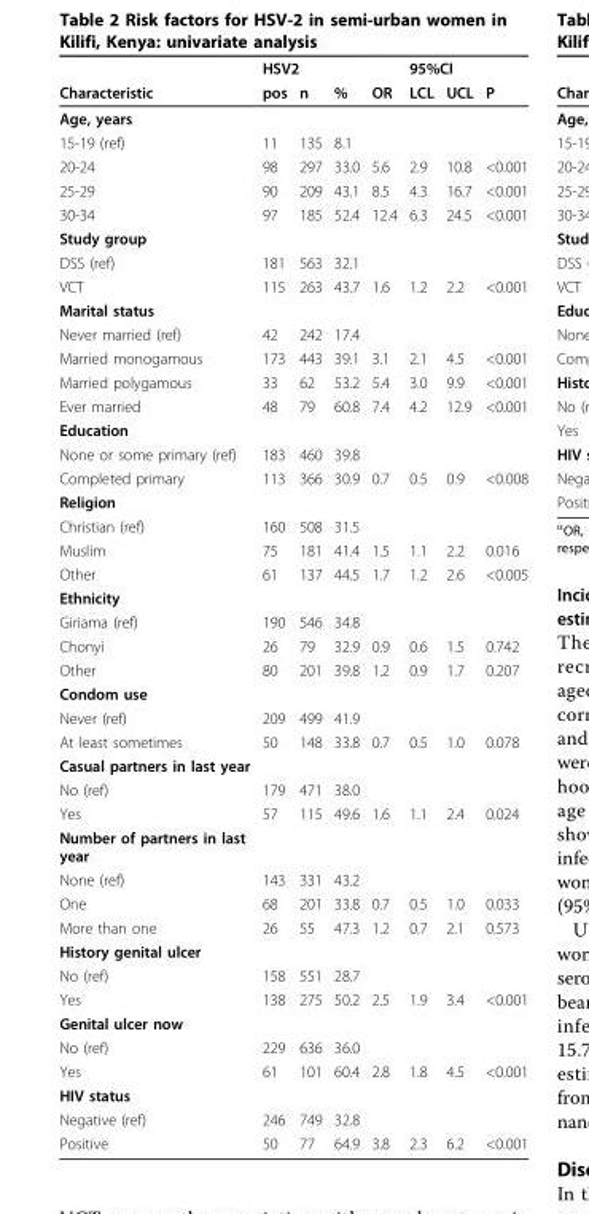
<table><thead><tr><td rowspan="2">Characteristic</td><td colspan="3">HSV2</td><td rowspan="2">OR</td><td colspan="3">95%CI</td></tr><tr><td>pos</td><td>n</td><td>%</td><td>LCL</td><td>UCL</td><td>P</td></tr></thead><tbody><tr><td colspan="8">Age, years</td></tr><tr><td>15-19 (ref)</td><td>11</td><td>135</td><td>8.1</td><td></td><td></td><td></td><td></td></tr><tr><td>20-24</td><td>98</td><td>297</td><td>33.0</td><td>5.6</td><td>2.9</td><td>10.8</td><td>&lt;0.001</td></tr><tr><td>25-29</td><td>90</td><td>209</td><td>43.1</td><td>8.5</td><td>4.3</td><td>16.7</td><td>&lt;0.001</td></tr><tr><td>30-34</td><td>97</td><td>185</td><td>52.4</td><td>12.4</td><td>6.3</td><td>24.5</td><td>&lt;0.001</td></tr><tr><td colspan="8">Study group</td></tr><tr><td>DSS (ref)</td><td>181</td><td>563</td><td>32.1</td><td></td><td></td><td></td><td></td></tr><tr><td>VCT</td><td>115</td><td>263</td><td>43.7</td><td>1.6</td><td>1.2</td><td>2.2</td><td>&lt;0.001</td></tr><tr><td colspan="8">Marital status</td></tr><tr><td>Never married (ref)</td><td>42</td><td>242</td><td>17.4</td><td></td><td></td><td></td><td></td></tr><tr><td>Married monogamous</td><td>173</td><td>443</td><td>39.1</td><td>3.1</td><td>2.1</td><td>4.5</td><td>&lt;0.001</td></tr><tr><td>Married polygamous</td><td>33</td><td>62</td><td>53.2</td><td>5.4</td><td>3.0</td><td>9.9</td><td>&lt;0.001</td></tr><tr><td>Ever married</td><td>48</td><td>79</td><td>60.8</td><td>7.4</td><td>4.2</td><td>12.9</td><td>&lt;0.001</td></tr><tr><td colspan="8">Education</td></tr><tr><td>None or some primary (ref)</td><td>183</td><td>460</td><td>39.8</td><td></td><td></td><td></td><td></td></tr><tr><td>Completed primary</td><td>113</td><td>366</td><td>30.9</td><td>0.7</td><td>0.5</td><td>0.9</td><td>&lt;0.008</td></tr><tr><td colspan="8">Religion</td></tr><tr><td>Christian (ref)</td><td>160</td><td>508</td><td>31.5</td><td></td><td></td><td></td><td></td></tr><tr><td>Muslim</td><td>75</td><td>181</td><td>41.4</td><td>1.5</td><td>1.1</td><td>2.2</td><td>0.016</td></tr><tr><td>Other</td><td>61</td><td>137</td><td>44.5</td><td>1.7</td><td>1.2</td><td>2.6</td><td>&lt;0.005</td></tr><tr><td colspan="8">Ethnicity</td></tr><tr><td>Giriama (ref)</td><td>190</td><td>546</td><td>34.8</td><td></td><td></td><td></td><td></td></tr><tr><td>Chonyi</td><td>26</td><td>79</td><td>32.9</td><td>0.9</td><td>0.6</td><td>1.5</td><td>0.742</td></tr><tr><td>Other</td><td>80</td><td>201</td><td>39.8</td><td>1.2</td><td>0.9</td><td>1.7</td><td>0.207</td></tr><tr><td colspan="8">Condom use</td></tr><tr><td>Never (ref)</td><td>209</td><td>499</td><td>41.9</td><td></td><td></td><td></td><td></td></tr><tr><td>At least sometimes</td><td>50</td><td>148</td><td>33.8</td><td>0.7</td><td>0.5</td><td>1.0</td><td>0.078</td></tr><tr><td colspan="8">Casual partners in last year</td></tr><tr><td>No (ref)</td><td>179</td><td>471</td><td>38.0</td><td></td><td></td><td></td><td></td></tr><tr><td>Yes</td><td>57</td><td>115</td><td>49.6</td><td>1.6</td><td>1.1</td><td>2.4</td><td>0.024</td></tr><tr><td colspan="8">Number of partners in last year</td></tr><tr><td>None (ref)</td><td>143</td><td>331</td><td>43.2</td><td></td><td></td><td></td><td></td></tr><tr><td>One</td><td>68</td><td>201</td><td>33.8</td><td>0.7</td><td>0.5</td><td>1.0</td><td>0.033</td></tr><tr><td>More than one</td><td>26</td><td>55</td><td>47.3</td><td>1.2</td><td>0.7</td><td>2.1</td><td>0.573</td></tr><tr><td colspan="8">History genital ulcer</td></tr><tr><td>No (ref)</td><td>158</td><td>551</td><td>28.7</td><td></td><td></td><td></td><td></td></tr><tr><td>Yes</td><td>138</td><td>275</td><td>50.2</td><td>2.5</td><td>1.9</td><td>3.4</td><td>&lt;0.001</td></tr><tr><td colspan="8">Genital ulcer now</td></tr><tr><td>No (ref)</td><td>229</td><td>636</td><td>36.0</td><td></td><td></td><td></td><td></td></tr><tr><td>Yes</td><td>61</td><td>101</td><td>60.4</td><td>2.8</td><td>1.8</td><td>4.5</td><td>&lt;0.001</td></tr><tr><td colspan="8">HIV status</td></tr><tr><td>Negative (ref)</td><td>246</td><td>749</td><td>32.8</td><td></td><td></td><td></td><td></td></tr><tr><td>Positive</td><td>50</td><td>77</td><td>64.9</td><td>3.8</td><td>2.3</td><td>6.2</td><td>&lt;0.001</td></tr></tbody></table>